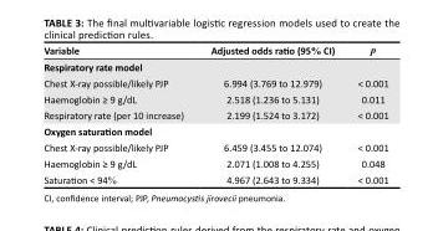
<table><thead><tr><td>Variable</td><td>Adjusted odds ratio (95% CI)</td><td>p</td></tr></thead><tbody><tr><td colspan="3">Respiratory rate model</td></tr><tr><td>Chest X-ray possible/likely PJP</td><td>6.994 (3.769 to 12.979)</td><td>&lt; 0.001</td></tr><tr><td>Haemoglobin ≥ 9 g/dL</td><td>2.518 (1.236 to 5.131)</td><td>0.011</td></tr><tr><td>Respiratory rate (per 10 increase)</td><td>2.199 (1.524 to 3.172)</td><td>&lt; 0.001</td></tr><tr><td colspan="3">Oxygen saturation model</td></tr><tr><td>Chest X-ray possible/likely PJP</td><td>6.459 (3.455 to 12.074)</td><td>&lt; 0.001</td></tr><tr><td>Haemoglobin ≥ 9 g/dL</td><td>2.071 (1.008 to 4.255)</td><td>0.048</td></tr><tr><td>Saturation &lt; 94%</td><td>4.967 (2.643 to 9.334)</td><td>&lt; 0.001</td></tr></tbody></table>